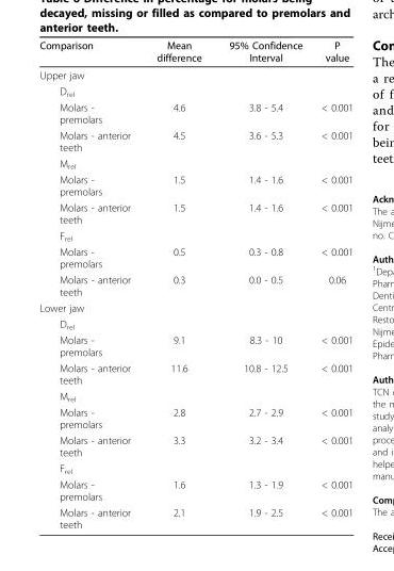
<table><thead><tr><td>Comparison</td><td>Mean difference</td><td>95% Confidence Interval</td><td>P value</td></tr></thead><tbody><tr><td colspan="4">Upper jaw</td></tr><tr><td colspan="4">D<sub>rel</sub></td></tr><tr><td>Molars - premolars</td><td>4.6</td><td>3.8 - 5.4</td><td>&lt; 0.001</td></tr><tr><td>Molars - anterior teeth</td><td>4.5</td><td>3.6 - 5.3</td><td>&lt; 0.001</td></tr><tr><td colspan="4">M<sub>rel</sub></td></tr><tr><td>Molars - premolars</td><td>1.5</td><td>1.4 - 1.6</td><td>&lt; 0.001</td></tr><tr><td>Molars - anterior teeth</td><td>1.5</td><td>1.4 - 1.6</td><td>&lt; 0.001</td></tr><tr><td colspan="4">F<sub>rel</sub></td></tr><tr><td>Molars - premolars</td><td>0.5</td><td>0.3 - 0.8</td><td>&lt; 0.001</td></tr><tr><td>Molars - anterior teeth</td><td>0.3</td><td>0.0 - 0.5</td><td>0.06</td></tr><tr><td colspan="4">Lower jaw</td></tr><tr><td colspan="4">D<sub>rel</sub></td></tr><tr><td>Molars - premolars</td><td>9.1</td><td>8.3 - 10</td><td>&lt; 0.001</td></tr><tr><td>Molars - anterior teeth</td><td>11.6</td><td>10.8 - 12.5</td><td>&lt; 0.001</td></tr><tr><td colspan="4">M<sub>rel</sub></td></tr><tr><td>Molars - premolars</td><td>2.8</td><td>2.7 - 2.9</td><td>&lt; 0.001</td></tr><tr><td>Molars - anterior teeth</td><td>3.3</td><td>3.2 - 3.4</td><td>&lt; 0.001</td></tr><tr><td colspan="4">F<sub>rel</sub></td></tr><tr><td>Molars - premolars</td><td>1.6</td><td>1.3 - 1.9</td><td>&lt; 0.001</td></tr><tr><td>Molars - anterior teeth</td><td>2.1</td><td>1.9 - 2.5</td><td>&lt; 0.001</td></tr></tbody></table>